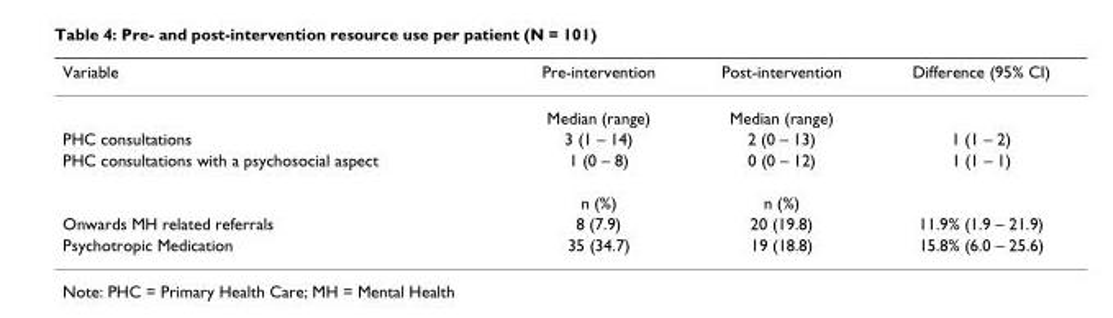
<table><thead><tr><td>Variable</td><td>Pre-intervention</td><td>Post-intervention</td><td>Difference (95% CI)</td></tr></thead><tbody><tr><td></td><td>Median (range)</td><td>Median (range)</td><td></td></tr><tr><td>PHC consultations</td><td>3 (1 – 14)</td><td>2 (0 – 13)</td><td>1 (1 – 2)</td></tr><tr><td rowspan="2">PHC consultations with a psychosocial aspect</td><td>1 (0 – 8)</td><td>0 (0 – 12)</td><td>1 (1 – 1)</td></tr><tr><td>n (%)</td><td>n (%)</td><td></td></tr><tr><td>Onwards MH related referrals</td><td>8 (7.9)</td><td>20 (19.8)</td><td>11.9% (1.9 – 21.9)</td></tr><tr><td>Psychotropic Medication</td><td>35 (34.7)</td><td>19 (18.8)</td><td>15.8% (6.0 – 25.6)</td></tr></tbody></table>